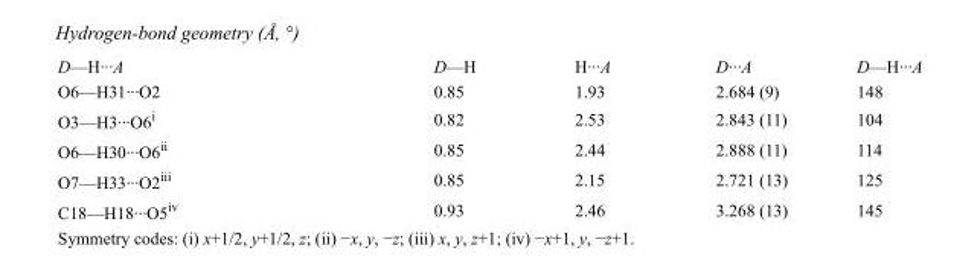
<table><tbody><tr><td>D—H···A</td><td>D—H</td><td>H···A</td><td>D···A</td><td>D—H···A</td></tr><tr><td>O6—H31···O2</td><td>0.85</td><td>1.93</td><td>2.684 (9)</td><td>148</td></tr><tr><td>O3—H3···O6<sup>i</sup></td><td>0.82</td><td>2.53</td><td>2.843 (11)</td><td>104</td></tr><tr><td>O6—H30···O6<sup>ii</sup></td><td>0.85</td><td>2.44</td><td>2.888 (11)</td><td>114</td></tr><tr><td>O7—H33···O2<sup>iii</sup></td><td>0.85</td><td>2.15</td><td>2.721 (13)</td><td>125</td></tr><tr><td>C18—H18···O5<sup>iv</sup></td><td>0.93</td><td>2.46</td><td>3.268 (13)</td><td>145</td></tr></tbody></table>